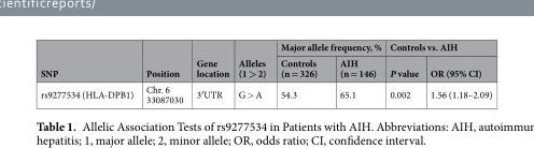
<table><thead><tr><td rowspan="2">SNP</td><td rowspan="2">Position</td><td rowspan="2">Gene location</td><td rowspan="2">Alleles (1 &gt; 2)</td><td colspan="2">Major allele frequency, %</td><td colspan="2">Controls vs. AIH</td></tr><tr><td>Controls (n = 326)</td><td>AIH (n = 146)</td><td>P value</td><td>OR (95% CI)</td></tr></thead><tbody><tr><td>rs9277534 (HLA-DPB1)</td><td>Chr. 6 33087030</td><td>3′UTR</td><td>G &gt; A</td><td>54.3</td><td>65.1</td><td>0.002</td><td>1.56 (1.18–2.09)</td></tr></tbody></table>